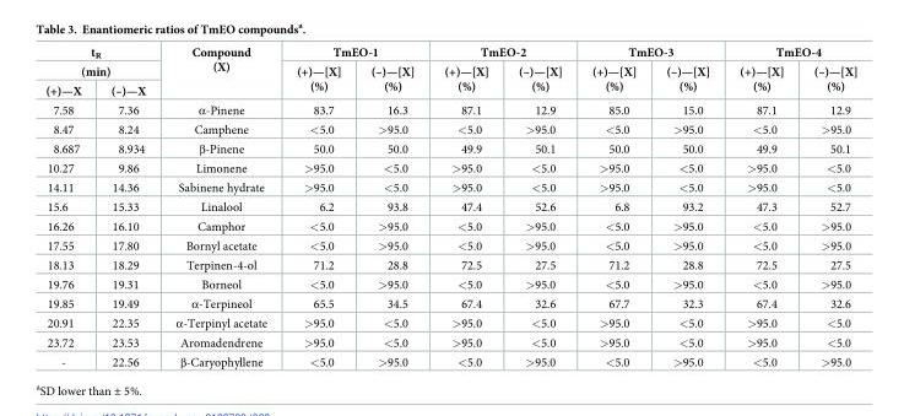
<table><thead><tr><td rowspan="2" colspan="2">t<sub>R</sub> (min)</td><td rowspan="3">Compound (X)</td><td colspan="2">TmEO-1</td><td colspan="2">TmEO-2</td><td colspan="2">TmEO-3</td><td colspan="2">TmEO-4</td></tr><tr><td rowspan="2">(+)—[X] (%)</td><td rowspan="2">(–)—[X] (%)</td><td rowspan="2">(+)—[X] (%)</td><td rowspan="2">(–)—[X] (%)</td><td rowspan="2">(+)—[X] (%)</td><td rowspan="2">(–)—[X] (%)</td><td rowspan="2">(+)—[X] (%)</td><td rowspan="2">(–)—[X] (%)</td></tr><tr><td>(+)—X</td><td>(–)—X</td></tr></thead><tbody><tr><td>7.58</td><td>7.36</td><td>α-Pinene</td><td>83.7</td><td>16.3</td><td>87.1</td><td>12.9</td><td>85.0</td><td>15.0</td><td>87.1</td><td>12.9</td></tr><tr><td>8.47</td><td>8.24</td><td>Camphene</td><td>&lt;5.0</td><td>&gt;95.0</td><td>&lt;5.0</td><td>&gt;95.0</td><td>&lt;5.0</td><td>&gt;95.0</td><td>&lt;5.0</td><td>&gt;95.0</td></tr><tr><td>8.687</td><td>8.934</td><td>β-Pinene</td><td>50.0</td><td>50.0</td><td>49.9</td><td>50.1</td><td>50.0</td><td>50.0</td><td>49.9</td><td>50.1</td></tr><tr><td>10.27</td><td>9.86</td><td>Limonene</td><td>&gt;95.0</td><td>&lt;5.0</td><td>&gt;95.0</td><td>&lt;5.0</td><td>&gt;95.0</td><td>&lt;5.0</td><td>&gt;95.0</td><td>&lt;5.0</td></tr><tr><td>14.11</td><td>14.36</td><td>Sabinene hydrate</td><td>&gt;95.0</td><td>&lt;5.0</td><td>&gt;95.0</td><td>&lt;5.0</td><td>&gt;95.0</td><td>&lt;5.0</td><td>&gt;95.0</td><td>&lt;5.0</td></tr><tr><td>15.6</td><td>15.33</td><td>Linalool</td><td>6.2</td><td>93.8</td><td>47.4</td><td>52.6</td><td>6.8</td><td>93.2</td><td>47.3</td><td>52.7</td></tr><tr><td>16.26</td><td>16.10</td><td>Camphor</td><td>&lt;5.0</td><td>&gt;95.0</td><td>&lt;5.0</td><td>&gt;95.0</td><td>&lt;5.0</td><td>&gt;95.0</td><td>&lt;5.0</td><td>&gt;95.0</td></tr><tr><td>17.55</td><td>17.80</td><td>Bornyl acetate</td><td>&lt;5.0</td><td>&gt;95.0</td><td>&lt;5.0</td><td>&gt;95.0</td><td>&lt;5.0</td><td>&gt;95.0</td><td>&lt;5.0</td><td>&gt;95.0</td></tr><tr><td>18.13</td><td>18.29</td><td>Terpinen-4-ol</td><td>71.2</td><td>28.8</td><td>72.5</td><td>27.5</td><td>71.2</td><td>28.8</td><td>72.5</td><td>27.5</td></tr><tr><td>19.76</td><td>19.31</td><td>Borneol</td><td>&lt;5.0</td><td>&gt;95.0</td><td>&lt;5.0</td><td>&gt;95.0</td><td>&lt;5.0</td><td>&gt;95.0</td><td>&lt;5.0</td><td>&gt;95.0</td></tr><tr><td>19.85</td><td>19.49</td><td>α-Terpineol</td><td>65.5</td><td>34.5</td><td>67.4</td><td>32.6</td><td>67.7</td><td>32.3</td><td>67.4</td><td>32.6</td></tr><tr><td>20.91</td><td>22.35</td><td>α-Terpinyl acetate</td><td>&gt;95.0</td><td>&lt;5.0</td><td>&gt;95.0</td><td>&lt;5.0</td><td>&gt;95.0</td><td>&lt;5.0</td><td>&gt;95.0</td><td>&lt;5.0</td></tr><tr><td>23.72</td><td>23.53</td><td>Aromadendrene</td><td>&gt;95.0</td><td>&lt;5.0</td><td>&gt;95.0</td><td>&lt;5.0</td><td>&gt;95.0</td><td>&lt;5.0</td><td>&gt;95.0</td><td>&lt;5.0</td></tr><tr><td>-</td><td>22.56</td><td>β-Caryophyllene</td><td>&lt;5.0</td><td>&gt;95.0</td><td>&lt;5.0</td><td>&gt;95.0</td><td>&lt;5.0</td><td>&gt;95.0</td><td>&lt;5.0</td><td>&gt;95.0</td></tr></tbody></table>